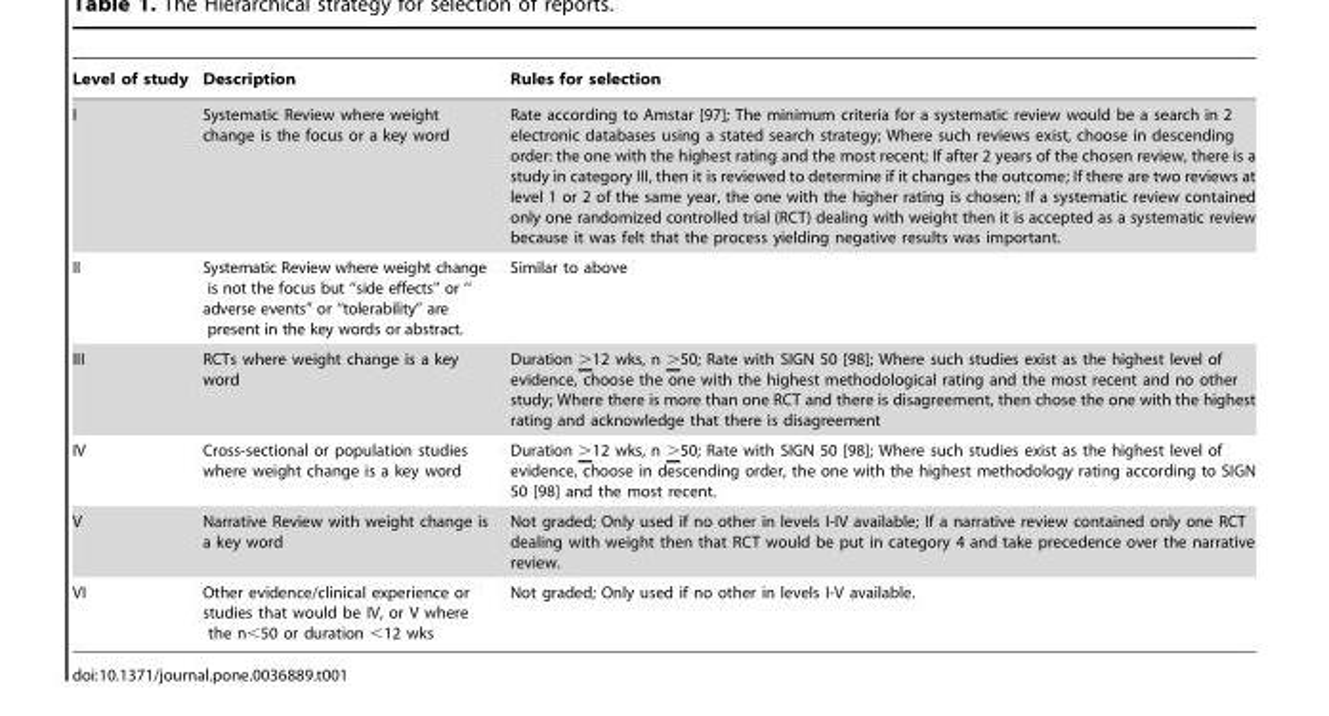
<table><thead><tr><td>Level of study</td><td>Description</td><td>Rules for selection</td></tr></thead><tbody><tr><td>I</td><td>Systematic Review where weight change is the focus or a key word</td><td>Rate according to Amstar [97]; The minimum criteria for a systematic review would be a search in 2 electronic databases using a stated search strategy; Where such reviews exist, choose in descending order: the one with the highest rating and the most recent; If after 2 years of the chosen review, there is a study in category III, then it is reviewed to determine if it changes the outcome; If there are two reviews at level 1 or 2 of the same year, the one with the higher rating is chosen; If a systematic review contained only one randomized controlled trial (RCT) dealing with weight then it is accepted as a systematic review because it was felt that the process yielding negative results was important.</td></tr><tr><td>II</td><td>Systematic Review where weight change is not the focus but ‘‘side effects’’ or ‘‘ adverse events’’ or ‘‘tolerability’’ are present in the key words or abstract.</td><td>Similar to above</td></tr><tr><td>III</td><td>RCTs where weight change is a key word</td><td>Duration &gt;12 wks, n &gt;50; Rate with SIGN 50 [98]; Where such studies exist as the highest level of evidence, choose the one with the highest methodological rating and the most recent and no other study; Where there is more than one RCT and there is disagreement, then chose the one with the highest rating and acknowledge that there is disagreement</td></tr><tr><td>IV</td><td>Cross-sectional or population studies where weight change is a key word</td><td>Duration &gt;12 wks, n &gt;50; Rate with SIGN 50 [98]; Where such studies exist as the highest level of evidence, choose in descending order, the one with the highest methodology rating according to SIGN 50 [98] and the most recent.</td></tr><tr><td>V</td><td>Narrative Review with weight change is a key word</td><td>Not graded; Only used if no other in levels I-IV available; If a narrative review contained only one RCT dealing with weight then that RCT would be put in category 4 and take precedence over the narrative review.</td></tr><tr><td>VI</td><td>Other evidence/clinical experience or studies that would be IV, or V where the n&lt;50 or duration &lt;12 wks</td><td>Not graded; Only used if no other in levels I-V available.</td></tr></tbody></table>